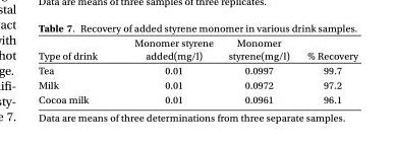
<table><thead><tr><td>Type of drink</td><td>Monomer styrene added(mg/l)</td><td>Monomer styrene(mg/l)</td><td>% Recovery</td></tr></thead><tbody><tr><td>Tea</td><td>0.01</td><td>0.0997</td><td>99.7</td></tr><tr><td>Milk</td><td>0.01</td><td>0.0972</td><td>97.2</td></tr><tr><td>Cocoa milk</td><td>0.01</td><td>0.0961</td><td>96.1</td></tr></tbody></table>